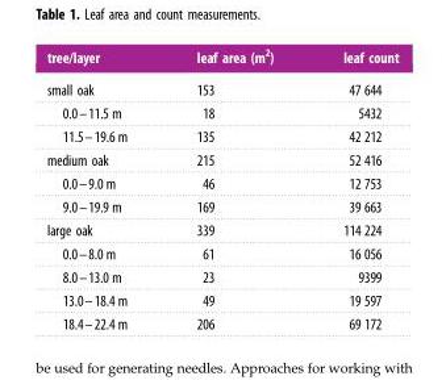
<table><thead><tr><td>tree/layer</td><td>leaf area (m<sup>2</sup>)</td><td>leaf count</td></tr></thead><tbody><tr><td>small oak</td><td>153</td><td>47 644</td></tr><tr><td>0.0–11.5 m</td><td>18</td><td>5432</td></tr><tr><td>11.5–19.6 m</td><td>135</td><td>42 212</td></tr><tr><td>medium oak</td><td>215</td><td>52 416</td></tr><tr><td>0.0–9.0 m</td><td>46</td><td>12 753</td></tr><tr><td>9.0–19.9 m</td><td>169</td><td>39 663</td></tr><tr><td>large oak</td><td>339</td><td>114 224</td></tr><tr><td>0.0–8.0 m</td><td>61</td><td>16 056</td></tr><tr><td>8.0–13.0 m</td><td>23</td><td>9399</td></tr><tr><td>13.0–18.4 m</td><td>49</td><td>19 597</td></tr><tr><td>18.4–22.4 m</td><td>206</td><td>69 172</td></tr></tbody></table>